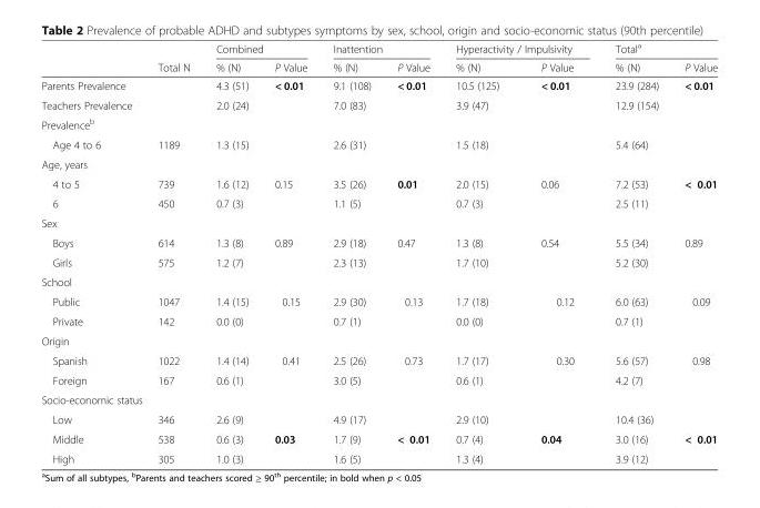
<table><thead><tr><td rowspan="2"></td><td rowspan="2">Total N</td><td colspan="2">Combined</td><td colspan="2">Inattention</td><td colspan="2">Hyperactivity / Impulsivity</td><td colspan="2">Total<sup>a</sup></td></tr><tr><td>% (N)</td><td>P Value</td><td>% (N)</td><td>P Value</td><td>% (N)</td><td>P Value</td><td>% (N)</td><td>P Value</td></tr></thead><tbody><tr><td>Parents Prevalence</td><td></td><td>4.3 (51)</td><td rowspan="2">&lt; 0.01</td><td>9.1 (108)</td><td rowspan="2">&lt; 0.01</td><td>10.5 (125)</td><td rowspan="2">&lt; 0.01</td><td>23.9 (284)</td><td rowspan="2">&lt; 0.01</td></tr><tr><td>Teachers Prevalence</td><td></td><td>2.0 (24)</td><td>7.0 (83)</td><td>3.9 (47)</td><td>12.9 (154)</td></tr><tr><td colspan="10">Prevalence<sup>b</sup></td></tr><tr><td>Age 4 to 6</td><td>1189</td><td>1.3 (15)</td><td></td><td>2.6 (31)</td><td></td><td>1.5 (18)</td><td></td><td>5.4 (64)</td><td></td></tr><tr><td colspan="10">Age, years</td></tr><tr><td>4 to 5</td><td>739</td><td>1.6 (12)</td><td rowspan="2">0.15</td><td>3.5 (26)</td><td rowspan="2">0.01</td><td>2.0 (15)</td><td rowspan="2">0.06</td><td>7.2 (53)</td><td rowspan="2">&lt; 0.01</td></tr><tr><td>6</td><td>450</td><td>0.7 (3)</td><td>1.1 (5)</td><td>0.7 (3)</td><td>2.5 (11)</td></tr><tr><td colspan="10">Sex</td></tr><tr><td>Boys</td><td>614</td><td>1.3 (8)</td><td rowspan="2">0.89</td><td>2.9 (18)</td><td rowspan="2">0.47</td><td>1.3 (8)</td><td rowspan="2">0.54</td><td>5.5 (34)</td><td rowspan="2">0.89</td></tr><tr><td>Girls</td><td>575</td><td>1.2 (7)</td><td>2.3 (13)</td><td>1.7 (10)</td><td>5.2 (30)</td></tr><tr><td colspan="10">School</td></tr><tr><td>Public</td><td>1047</td><td>1.4 (15)</td><td>0.15</td><td>2.9 (30)</td><td>0.13</td><td>1.7 (18)</td><td>0.12</td><td>6.0 (63)</td><td>0.09</td></tr><tr><td>Private</td><td>142</td><td>0.0 (0)</td><td></td><td>0.7 (1)</td><td></td><td>0.0 (0)</td><td></td><td>0.7 (1)</td><td></td></tr><tr><td colspan="10">Origin</td></tr><tr><td>Spanish</td><td>1022</td><td>1.4 (14)</td><td>0.41</td><td>2.5 (26)</td><td>0.73</td><td>1.7 (17)</td><td>0.30</td><td>5.6 (57)</td><td>0.98</td></tr><tr><td>Foreign</td><td>167</td><td>0.6 (1)</td><td></td><td>3.0 (5)</td><td></td><td>0.6 (1)</td><td></td><td>4.2 (7)</td><td></td></tr><tr><td colspan="10">Socio-economic status</td></tr><tr><td>Low</td><td>346</td><td>2.6 (9)</td><td></td><td>4.9 (17)</td><td></td><td>2.9 (10)</td><td></td><td>10.4 (36)</td><td></td></tr><tr><td>Middle</td><td>538</td><td>0.6 (3)</td><td>0.03</td><td>1.7 (9)</td><td>&lt; 0.01</td><td>0.7 (4)</td><td>0.04</td><td>3.0 (16)</td><td>&lt; 0.01</td></tr><tr><td>High</td><td>305</td><td>1.0 (3)</td><td></td><td>1.6 (5)</td><td></td><td>1.3 (4)</td><td></td><td>3.9 (12)</td><td></td></tr></tbody></table>